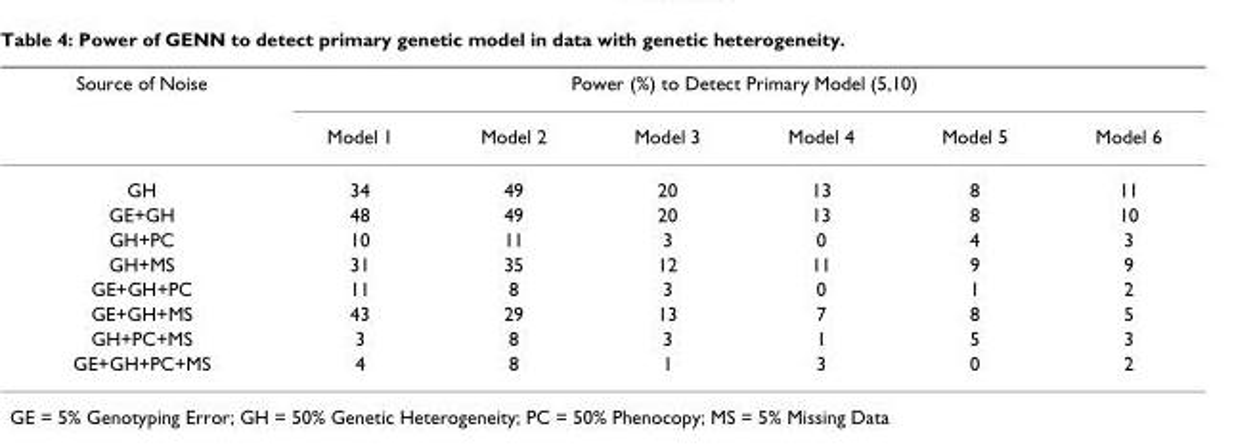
<table><thead><tr><td rowspan="2">Source of Noise</td><td colspan="6">Power (%) to Detect Primary Model (5,10)</td></tr><tr><td>Model 1</td><td>Model 2</td><td>Model 3</td><td>Model 4</td><td>Model 5</td><td>Model 6</td></tr></thead><tbody><tr><td>GH</td><td>34</td><td>49</td><td>20</td><td>13</td><td>8</td><td>11</td></tr><tr><td>GE+GH</td><td>48</td><td>49</td><td>20</td><td>13</td><td>8</td><td>10</td></tr><tr><td>GH+PC</td><td>10</td><td>11</td><td>3</td><td>0</td><td>4</td><td>3</td></tr><tr><td>GH+MS</td><td>31</td><td>35</td><td>12</td><td>11</td><td>9</td><td>9</td></tr><tr><td>GE+GH+PC</td><td>11</td><td>8</td><td>3</td><td>0</td><td>1</td><td>2</td></tr><tr><td>GE+GH+MS</td><td>43</td><td>29</td><td>13</td><td>7</td><td>8</td><td>5</td></tr><tr><td>GH+PC+MS</td><td>3</td><td>8</td><td>3</td><td>1</td><td>5</td><td>3</td></tr><tr><td>GE+GH+PC+MS</td><td>4</td><td>8</td><td>1</td><td>3</td><td>0</td><td>2</td></tr></tbody></table>